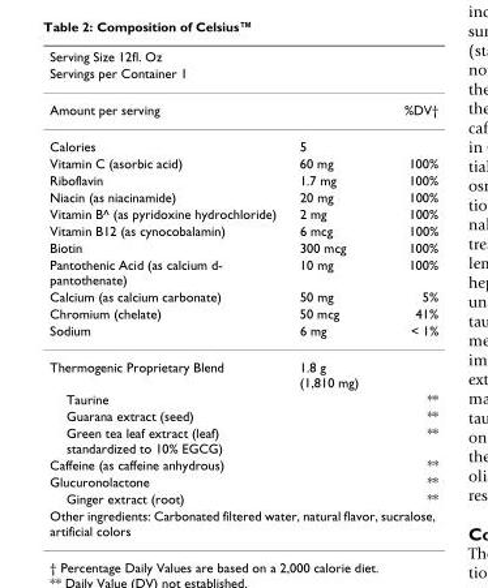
<table><thead><tr><td rowspan="2">Serving Size 12fl. Oz Servings per Container 1</td><td rowspan="2"></td><td rowspan="2"></td></tr><tr></tr></thead><tbody><tr><td>Amount per serving</td><td></td><td>%DV†</td></tr><tr><td>Calories</td><td>5</td><td></td></tr><tr><td>Vitamin C (asorbic acid)</td><td>60 mg</td><td>100%</td></tr><tr><td>Riboflavin</td><td>1.7 mg</td><td>100%</td></tr><tr><td>Niacin (as niacinamide)</td><td>20 mg</td><td>100%</td></tr><tr><td>Vitamin B^ (as pyridoxine hydrochloride)</td><td>2 mg</td><td>100%</td></tr><tr><td>Vitamin B12 (as cynocobalamin)</td><td>6 mcg</td><td>100%</td></tr><tr><td>Biotin</td><td>300 mcg</td><td>100%</td></tr><tr><td>Pantothenic Acid (as calcium d- pantothenate)</td><td>10 mg</td><td>100%</td></tr><tr><td>Calcium (as calcium carbonate)</td><td>50 mg</td><td>5%</td></tr><tr><td>Chromium (chelate)</td><td>50 mcg</td><td>41%</td></tr><tr><td>Sodium</td><td>6 mg</td><td>&lt; 1%</td></tr><tr><td>Thermogenic Proprietary Blend</td><td>1.8 g (1,810 mg)</td><td></td></tr><tr><td>Taurine</td><td></td><td>**</td></tr><tr><td>Guarana extract (seed)</td><td></td><td>**</td></tr><tr><td>Green tea leaf extract (leaf) standardized to 10% EGCG)</td><td></td><td>**</td></tr><tr><td>Caffeine (as caffeine anhydrous)</td><td></td><td>**</td></tr><tr><td>Glucuronolactone</td><td></td><td>**</td></tr><tr><td>Ginger extract (root)</td><td></td><td>**</td></tr><tr><td colspan="3">Other ingredients: Carbonated filtered water, natural flavor, sucralose, artificial colors</td></tr></tbody></table>